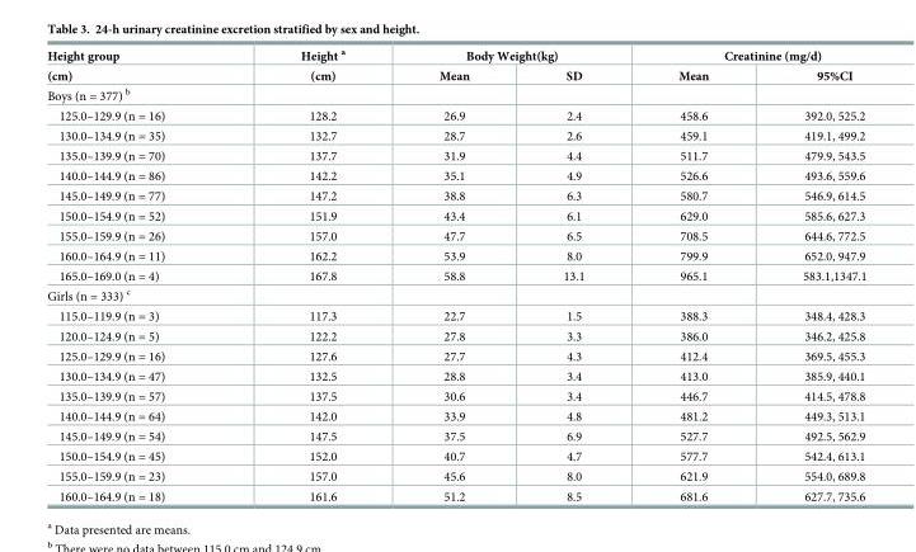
<table><thead><tr><td rowspan="2">Height group (cm)</td><td rowspan="2">Height <sup>a</sup> (cm)</td><td colspan="2">Body Weight(kg)</td><td colspan="2">Creatinine (mg/d)</td></tr><tr><td>Mean</td><td>SD</td><td>Mean</td><td>95%CI</td></tr></thead><tbody><tr><td colspan="6">Boys (n = 377) <sup>b</sup></td></tr><tr><td>125.0–129.9 (n = 16)</td><td>128.2</td><td>26.9</td><td>2.4</td><td>458.6</td><td>392.0, 525.2</td></tr><tr><td>130.0–134.9 (n = 35)</td><td>132.7</td><td>28.7</td><td>2.6</td><td>459.1</td><td>419.1, 499.2</td></tr><tr><td>135.0–139.9 (n = 70)</td><td>137.7</td><td>31.9</td><td>4.4</td><td>511.7</td><td>479.9, 543.5</td></tr><tr><td>140.0–144.9 (n = 86)</td><td>142.2</td><td>35.1</td><td>4.9</td><td>526.6</td><td>493.6, 559.6</td></tr><tr><td>145.0–149.9 (n = 77)</td><td>147.2</td><td>38.8</td><td>6.3</td><td>580.7</td><td>546.9, 614.5</td></tr><tr><td>150.0–154.9 (n = 52)</td><td>151.9</td><td>43.4</td><td>6.1</td><td>629.0</td><td>585.6, 627.3</td></tr><tr><td>155.0–159.9 (n = 26)</td><td>157.0</td><td>47.7</td><td>6.5</td><td>708.5</td><td>644.6, 772.5</td></tr><tr><td>160.0–164.9 (n = 11)</td><td>162.2</td><td>53.9</td><td>8.0</td><td>799.9</td><td>652.0, 947.9</td></tr><tr><td>165.0–169.0 (n = 4)</td><td>167.8</td><td>58.8</td><td>13.1</td><td>965.1</td><td>583.1,1347.1</td></tr><tr><td colspan="6">Girls (n = 333) <sup>c</sup></td></tr><tr><td>115.0–119.9 (n = 3)</td><td>117.3</td><td>22.7</td><td>1.5</td><td>388.3</td><td>348.4, 428.3</td></tr><tr><td>120.0–124.9 (n = 5)</td><td>122.2</td><td>27.8</td><td>3.3</td><td>386.0</td><td>346.2, 425.8</td></tr><tr><td>125.0–129.9 (n = 16)</td><td>127.6</td><td>27.7</td><td>4.3</td><td>412.4</td><td>369.5, 455.3</td></tr><tr><td>130.0–134.9 (n = 47)</td><td>132.5</td><td>28.8</td><td>3.4</td><td>413.0</td><td>385.9, 440.1</td></tr><tr><td>135.0–139.9 (n = 57)</td><td>137.5</td><td>30.6</td><td>3.4</td><td>446.7</td><td>414.5, 478.8</td></tr><tr><td>140.0–144.9 (n = 64)</td><td>142.0</td><td>33.9</td><td>4.8</td><td>481.2</td><td>449.3, 513.1</td></tr><tr><td>145.0–149.9 (n = 54)</td><td>147.5</td><td>37.5</td><td>6.9</td><td>527.7</td><td>492.5, 562.9</td></tr><tr><td>150.0–154.9 (n = 45)</td><td>152.0</td><td>40.7</td><td>4.7</td><td>577.7</td><td>542.4, 613.1</td></tr><tr><td>155.0–159.9 (n = 23)</td><td>157.0</td><td>45.6</td><td>8.0</td><td>621.9</td><td>554.0, 689.8</td></tr><tr><td>160.0–164.9 (n = 18)</td><td>161.6</td><td>51.2</td><td>8.5</td><td>681.6</td><td>627.7, 735.6</td></tr></tbody></table>